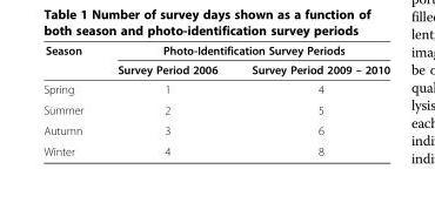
<table><thead><tr><td rowspan="2">Season</td><td colspan="2">Photo-Identification Survey Periods</td></tr><tr><td>Survey Period 2006</td><td>Survey Period 2009 – 2010</td></tr></thead><tbody><tr><td>Spring</td><td>1</td><td>4</td></tr><tr><td>Summer</td><td>2</td><td>5</td></tr><tr><td>Autumn</td><td>3</td><td>6</td></tr><tr><td>Winter</td><td>4</td><td>8</td></tr></tbody></table>